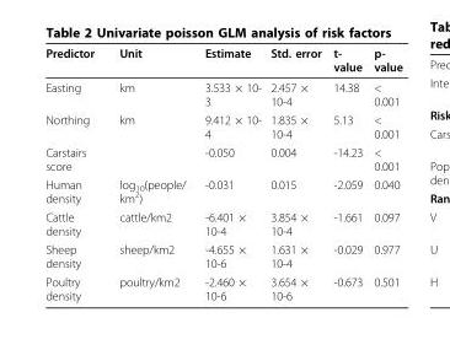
<table><thead><tr><td>Predictor</td><td>Unit</td><td>Estimate</td><td>Std. error</td><td>t- value</td><td>p- value</td></tr></thead><tbody><tr><td>Easting</td><td>km</td><td>3.533 × 10- 3</td><td>2.457 × 10-4</td><td>14.38</td><td>&lt; 0.001</td></tr><tr><td>Northing</td><td>km</td><td>9.412 × 10- 4</td><td>1.835 × 10-4</td><td>5.13</td><td>&lt; 0.001</td></tr><tr><td>Carstairs score</td><td></td><td>-0.050</td><td>0.004</td><td>-14.23</td><td>&lt; 0.001</td></tr><tr><td>Human density</td><td>log<sub>10</sub>(people/ km<sup>2</sup>)</td><td>-0.031</td><td>0.015</td><td>-2.059</td><td>0.040</td></tr><tr><td>Cattle density</td><td>cattle/km2</td><td>-6.401 × 10-4</td><td>3.854 × 10-4</td><td>-1.661</td><td>0.097</td></tr><tr><td>Sheep density</td><td>sheep/km2</td><td>-4.655 × 10-6</td><td>1.631 × 10-4</td><td>-0.029</td><td>0.977</td></tr><tr><td>Poultry density</td><td>poultry/km2</td><td>-2.460 × 10-6</td><td>3.654 × 10-6</td><td>-0.673</td><td>0.501</td></tr></tbody></table>